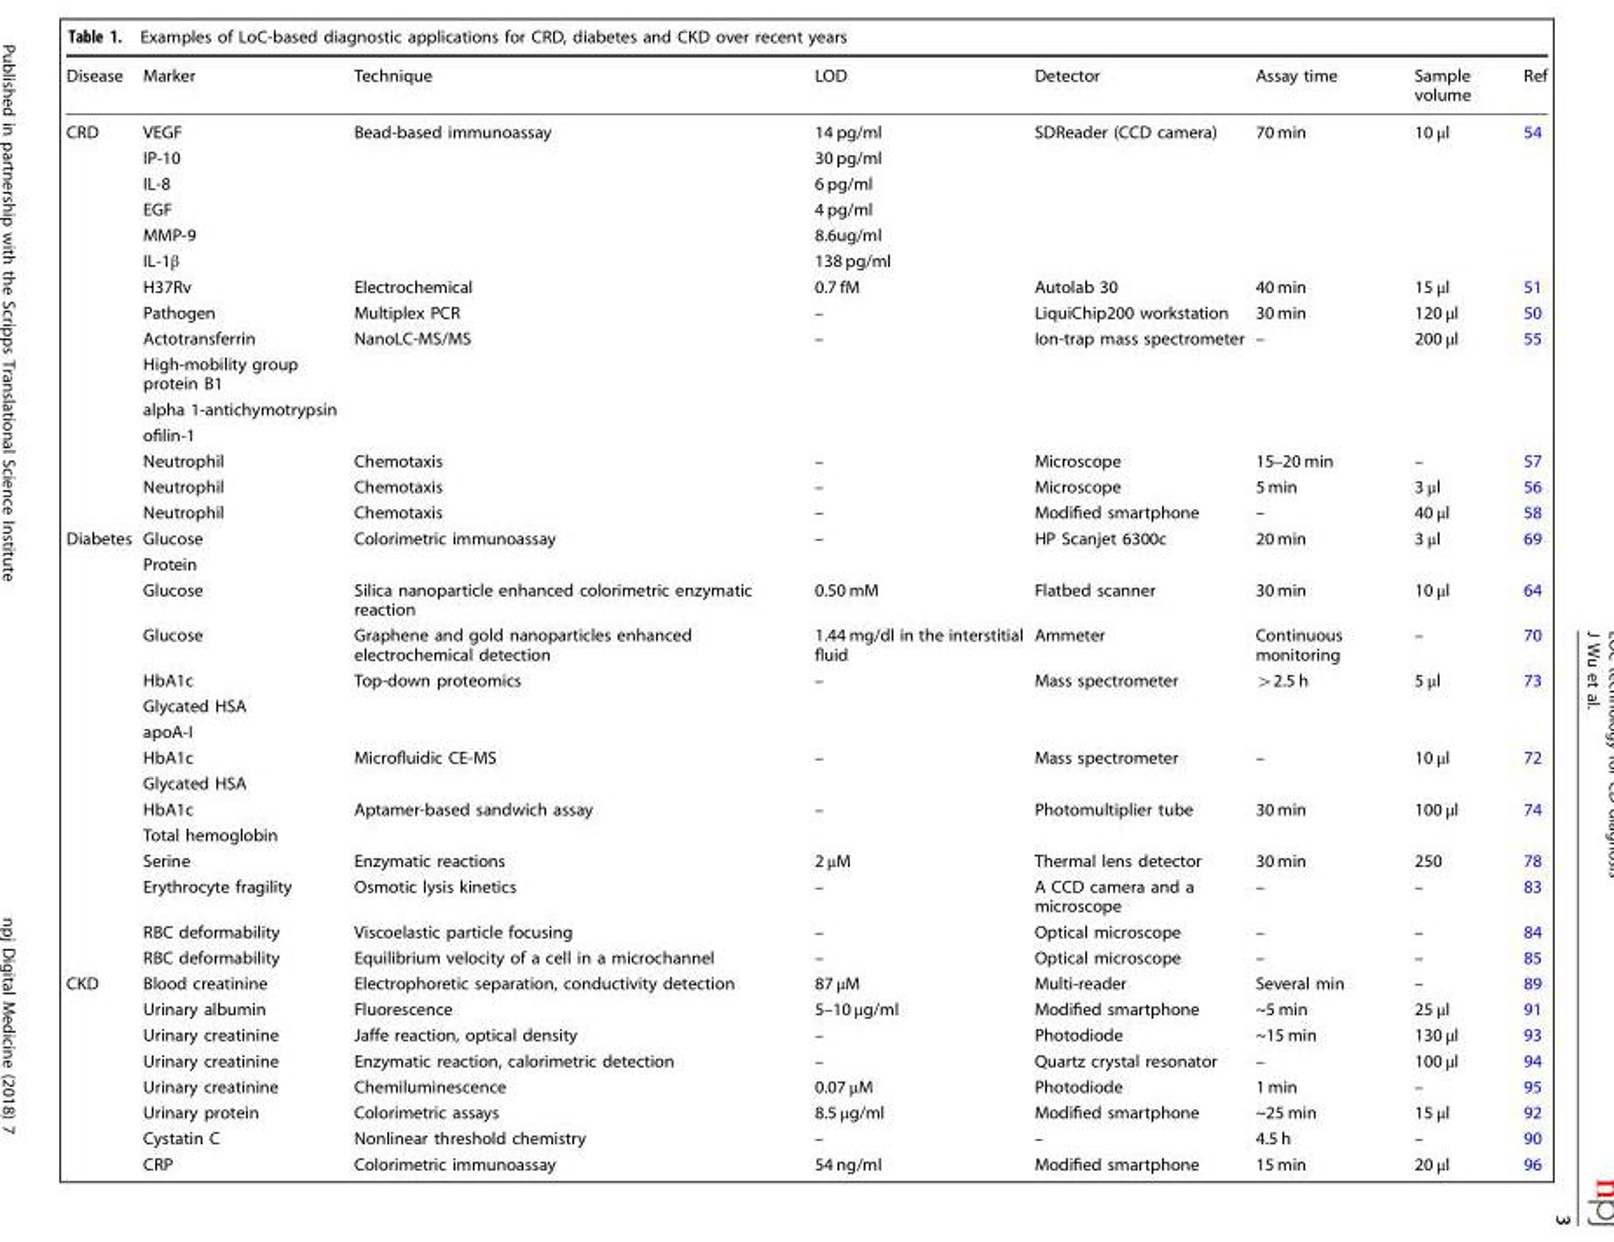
<table><thead><tr><td>Disease</td><td>Marker</td><td>Technique</td><td>LOD</td><td>Detector</td><td>Assay time</td><td>Sample volume</td><td>Ref</td></tr></thead><tbody><tr><td rowspan="15">CRD</td><td>VEGF</td><td rowspan="6">Bead-based immunoassay</td><td>14 pg/ml</td><td rowspan="6">SDReader (CCD camera)</td><td rowspan="6">70 min</td><td rowspan="6">10 μl</td><td rowspan="6">54</td></tr><tr><td>IP-10</td><td>30 pg/ml</td></tr><tr><td>IL-8</td><td>6 pg/ml</td></tr><tr><td>EGF</td><td>4 pg/ml</td></tr><tr><td>MMP-9</td><td>8.6ug/ml</td></tr><tr><td>IL-1β</td><td>138 pg/ml</td></tr><tr><td>H37Rv</td><td>Electrochemical</td><td>0.7 fM</td><td>Autolab 30</td><td>40 min</td><td>15 μl</td><td>51</td></tr><tr><td>Pathogen</td><td>Multiplex PCR</td><td>–</td><td>LiquiChip200 workstation</td><td>30 min</td><td>120 μl</td><td>50</td></tr><tr><td>Actotransferrin</td><td rowspan="4">NanoLC-MS/MS</td><td rowspan="4">–</td><td rowspan="4">Ion-trap mass spectrometer</td><td rowspan="4">–</td><td rowspan="4">200 μl</td><td rowspan="4">55</td></tr><tr><td>High-mobility group protein B1</td></tr><tr><td>alpha 1-antichymotrypsin</td></tr><tr><td>ofilin-1</td></tr><tr><td>Neutrophil</td><td>Chemotaxis</td><td>–</td><td>Microscope</td><td>15–20 min</td><td>–</td><td>57</td></tr><tr><td>Neutrophil</td><td>Chemotaxis</td><td>–</td><td>Microscope</td><td>5 min</td><td>3 μl</td><td>56</td></tr><tr><td>Neutrophil</td><td>Chemotaxis</td><td>–</td><td>Modified smartphone</td><td>–</td><td>40 μl</td><td>58</td></tr><tr><td rowspan="15">Diabetes</td><td>Glucose</td><td rowspan="2">Colorimetric immunoassay</td><td rowspan="2">–</td><td rowspan="2">HP Scanjet 6300c</td><td rowspan="2">20 min</td><td rowspan="2">3 μl</td><td rowspan="2">69</td></tr><tr><td>Protein</td></tr><tr><td>Glucose</td><td>Silica nanoparticle enhanced colorimetric enzymatic reaction</td><td>0.50 mM</td><td>Flatbed scanner</td><td>30 min</td><td>10 μl</td><td>64</td></tr><tr><td>Glucose</td><td>Graphene and gold nanoparticles enhanced electrochemical detection</td><td>1.44 mg/dl in the interstitial fluid</td><td>Ammeter</td><td>Continuous monitoring</td><td>–</td><td>70</td></tr><tr><td>HbA1c</td><td rowspan="3">Top-down proteomics</td><td rowspan="3">–</td><td rowspan="3">Mass spectrometer</td><td rowspan="3">&gt;2.5 h</td><td rowspan="3">5 μl</td><td rowspan="3">73</td></tr><tr><td>Glycated HSA</td></tr><tr><td>apoA-I</td></tr><tr><td>HbA1c</td><td rowspan="2">Microfluidic CE-MS</td><td rowspan="2">–</td><td rowspan="2">Mass spectrometer</td><td rowspan="2">–</td><td rowspan="2">10 μl</td><td rowspan="2">72</td></tr><tr><td>Glycated HSA</td></tr><tr><td>HbA1c</td><td rowspan="2">Aptamer-based sandwich assay</td><td rowspan="2">–</td><td rowspan="2">Photomultiplier tube</td><td rowspan="2">30 min</td><td rowspan="2">100 μl</td><td rowspan="2">74</td></tr><tr><td>Total hemoglobin</td></tr><tr><td>Serine</td><td>Enzymatic reactions</td><td>2 μM</td><td>Thermal lens detector</td><td>30 min</td><td>250</td><td>78</td></tr><tr><td>Erythrocyte fragility</td><td>Osmotic lysis kinetics</td><td>–</td><td>A CCD camera and a microscope</td><td>–</td><td>–</td><td>83</td></tr><tr><td>RBC deformability</td><td>Viscoelastic particle focusing</td><td>–</td><td>Optical microscope</td><td>–</td><td>–</td><td>84</td></tr><tr><td>RBC deformability</td><td>Equilibrium velocity of a cell in a microchannel</td><td>–</td><td>Optical microscope</td><td>–</td><td>–</td><td>85</td></tr><tr><td rowspan="8">CKD</td><td>Blood creatinine</td><td>Electrophoretic separation, conductivity detection</td><td>87 μM</td><td>Multi-reader</td><td>Several min</td><td>–</td><td>89</td></tr><tr><td>Urinary albumin</td><td>Fluorescence</td><td>5–10 μg/ml</td><td>Modified smartphone</td><td>~5 min</td><td>25 μl</td><td>91</td></tr><tr><td>Urinary creatinine</td><td>Jaffe reaction, optical density</td><td>–</td><td>Photodiode</td><td>~15 min</td><td>130 μl</td><td>93</td></tr><tr><td>Urinary creatinine</td><td>Enzymatic reaction, calorimetric detection</td><td>–</td><td>Quartz crystal resonator</td><td>–</td><td>100 μl</td><td>94</td></tr><tr><td>Urinary creatinine</td><td>Chemiluminescence</td><td>0.07 μM</td><td>Photodiode</td><td>1 min</td><td>–</td><td>95</td></tr><tr><td>Urinary protein</td><td>Colorimetric assays</td><td>8.5 μg/ml</td><td>Modified smartphone</td><td>~25 min</td><td>15 μl</td><td>92</td></tr><tr><td>Cystatin C</td><td>Nonlinear threshold chemistry</td><td>–</td><td>–</td><td>4.5 h</td><td>–</td><td>90</td></tr><tr><td>CRP</td><td>Colorimetric immunoassay</td><td>54 ng/ml</td><td>Modified smartphone</td><td>15 min</td><td>20 μl</td><td>96</td></tr></tbody></table>